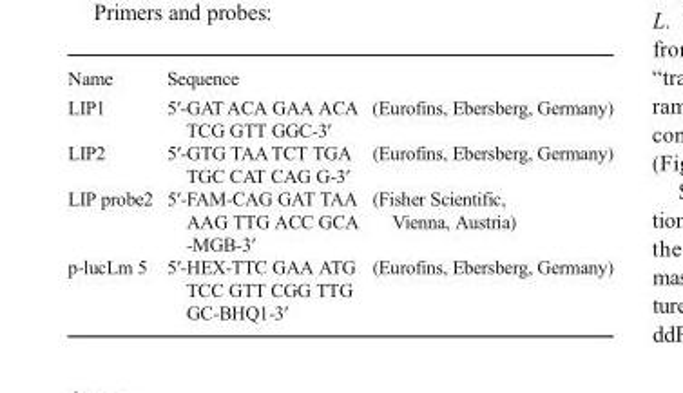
<table><tbody><tr><td>Name</td><td>Sequence</td><td></td></tr><tr><td>LIP1</td><td>5′-GAT ACA GAA ACA TCG GTT GGC-3′</td><td>(Eurofins, Ebersberg, Germany)</td></tr><tr><td>LIP2</td><td>5′-GTG TAA TCT TGA TGC CAT CAG G-3′</td><td>(Eurofins, Ebersberg, Germany)</td></tr><tr><td>LIP probe2</td><td>5′-FAM-CAG GAT TAA AAG TTG ACC GCA -MGB-3′</td><td>(Fisher Scientific, Vienna, Austria)</td></tr><tr><td>p-lucLm 5</td><td>5′-HEX-TTC GAA ATG TCC GTT CGG TTG GC-BHQ1-3′</td><td>(Eurofins, Ebersberg, Germany)</td></tr></tbody></table>